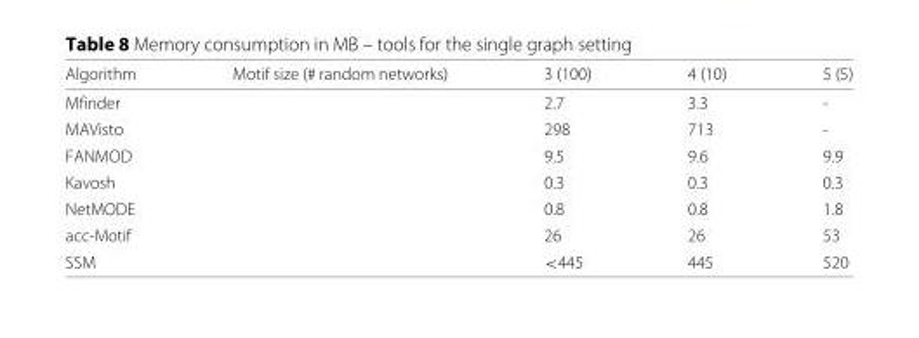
<table><thead><tr><td>Algorithm</td><td>Motif size (# random networks)</td><td>3 (100)</td><td>4 (10)</td><td>5 (5)</td></tr></thead><tbody><tr><td>Mfinder</td><td></td><td>2.7</td><td>3.3</td><td>-</td></tr><tr><td>MAVisto</td><td></td><td>298</td><td>713</td><td>-</td></tr><tr><td>FANMOD</td><td></td><td>9.5</td><td>9.6</td><td>9.9</td></tr><tr><td>Kavosh</td><td></td><td>0.3</td><td>0.3</td><td>0.3</td></tr><tr><td>NetMODE</td><td></td><td>0.8</td><td>0.8</td><td>1.8</td></tr><tr><td>acc-Motif</td><td></td><td>26</td><td>26</td><td>53</td></tr><tr><td>SSM</td><td></td><td>&lt;445</td><td>445</td><td>520</td></tr></tbody></table>